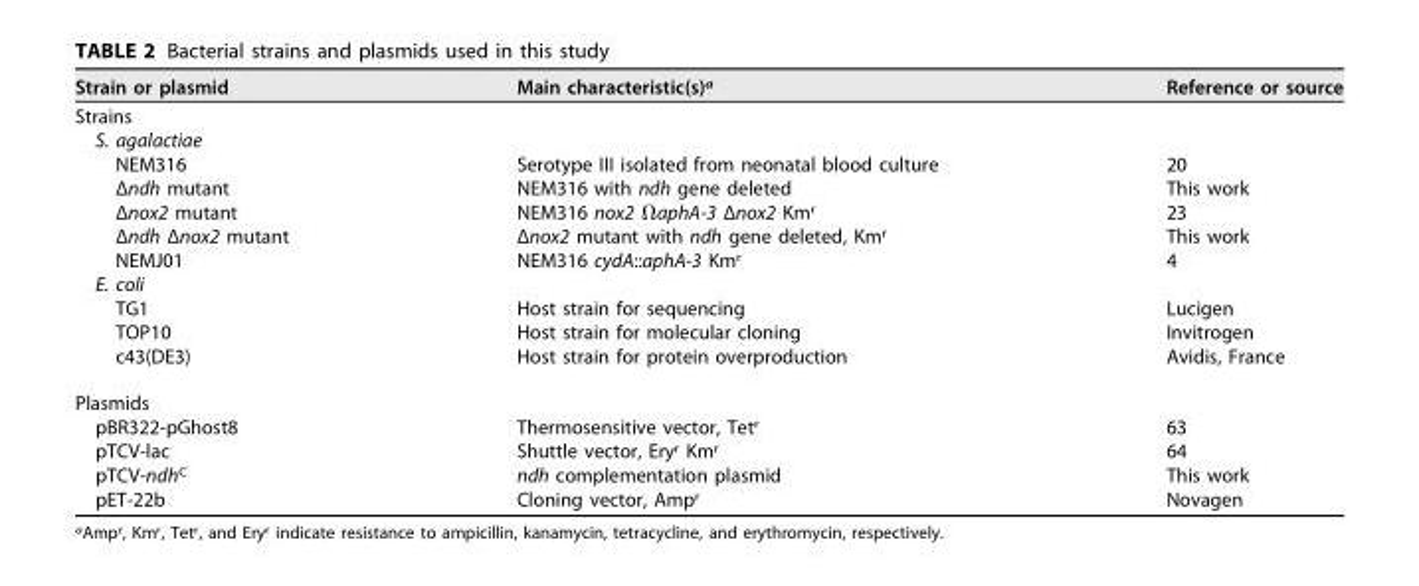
<table><thead><tr><td>Strain or plasmid</td><td>Main characteristic(s)<sup>a</sup></td><td>Reference or source</td></tr></thead><tbody><tr><td colspan="3">Strains</td></tr><tr><td colspan="3">S. agalactiae</td></tr><tr><td>NEM316</td><td>Serotype III isolated from neonatal blood culture</td><td>20</td></tr><tr><td>Δndh mutant</td><td>NEM316 with ndh gene deleted</td><td>This work</td></tr><tr><td>Δnox2 mutant</td><td>NEM316 nox2 ΩaphA-3 Δnox2 Km<sup>r</sup></td><td>23</td></tr><tr><td>Δndh Δnox2 mutant</td><td>Δnox2 mutant with ndh gene deleted, Km<sup>r</sup></td><td>This work</td></tr><tr><td>NEMJ01</td><td>NEM316 cydA::aphA-3 Km<sup>r</sup></td><td>4</td></tr><tr><td colspan="3">E. coli</td></tr><tr><td>TG1</td><td>Host strain for sequencing</td><td>Lucigen</td></tr><tr><td>TOP10</td><td>Host strain for molecular cloning</td><td>Invitrogen</td></tr><tr><td>c43(DE3)</td><td>Host strain for protein overproduction</td><td>Avidis, France</td></tr><tr><td colspan="3">Plasmids</td></tr><tr><td>pBR322-pGhost8</td><td>Thermosensitive vector, Tet<sup>r</sup></td><td>63</td></tr><tr><td>pTCV-lac</td><td>Shuttle vector, Ery<sup>r</sup> Km<sup>r</sup></td><td>64</td></tr><tr><td>pTCV-ndh<sup>C</sup></td><td>ndh complementation plasmid</td><td>This work</td></tr><tr><td>pET-22b</td><td>Cloning vector, Amp<sup>r</sup></td><td>Novagen</td></tr></tbody></table>